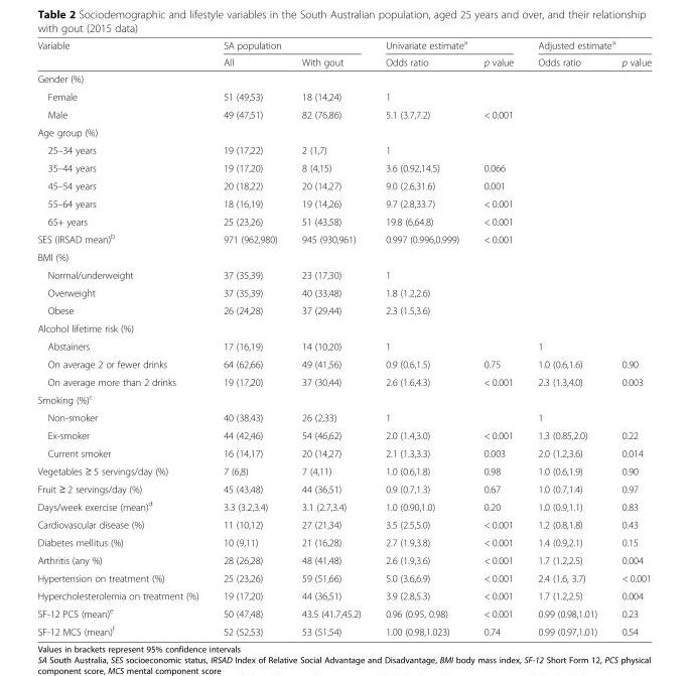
<table><thead><tr><td rowspan="2">Variable</td><td colspan="2">SA population</td><td colspan="2">Univariate estimate<sup>a</sup></td><td colspan="2">Adjusted estimate<sup>a</sup></td></tr><tr><td>All</td><td>With gout</td><td>Odds ratio</td><td>p value</td><td>Odds ratio</td><td>p value</td></tr></thead><tbody><tr><td colspan="7">Gender (%)</td></tr><tr><td>Female</td><td>51 (49,53)</td><td>18 (14,24)</td><td>1</td><td></td><td></td><td rowspan="2"></td></tr><tr><td>Male</td><td>49 (47,51)</td><td>82 (76,86)</td><td>5.1 (3.7,7.2)</td><td>&lt; 0.001</td><td></td></tr><tr><td colspan="7">Age group (%)</td></tr><tr><td>25–34 years</td><td>19 (17,22)</td><td>2 (1,7)</td><td>1</td><td></td><td></td><td rowspan="6"></td></tr><tr><td>35–44 years</td><td>19 (17,20)</td><td>8 (4,15)</td><td>3.6 (0.92,14.5)</td><td>0.066</td><td></td></tr><tr><td>45–54 years</td><td>20 (18,22)</td><td>20 (14,27)</td><td>9.0 (2.6,31.6)</td><td>0.001</td><td></td></tr><tr><td>55–64 years</td><td>18 (16,19)</td><td>19 (14,26)</td><td>9.7 (2.8,33.7)</td><td>&lt; 0.001</td><td></td></tr><tr><td>65+ years</td><td>25 (23,26)</td><td>51 (43,58)</td><td>19.8 (6,64.8)</td><td>&lt; 0.001</td><td></td></tr><tr><td>SES (IRSAD mean)<sup>b</sup></td><td>971 (962,980)</td><td>945 (930,961)</td><td>0.997 (0.996,0.999)</td><td>&lt; 0.001</td><td></td></tr><tr><td colspan="7">BMI (%)</td></tr><tr><td>Normal/underweight</td><td>37 (35,39)</td><td>23 (17,30)</td><td>1</td><td></td><td></td><td rowspan="3"></td></tr><tr><td>Overweight</td><td>37 (35,39)</td><td>40 (33,48)</td><td>1.8 (1.2,2.6)</td><td></td><td></td></tr><tr><td>Obese</td><td>26 (24,28)</td><td>37 (29,44)</td><td>2.3 (1.5,3.6)</td><td></td><td></td></tr><tr><td colspan="7">Alcohol lifetime risk (%)</td></tr><tr><td>Abstainers</td><td>17 (16,19)</td><td>14 (10,20)</td><td>1</td><td></td><td>1</td><td></td></tr><tr><td>On average 2 or fewer drinks</td><td>64 (62,66)</td><td>49 (41,56)</td><td>0.9 (0.6,1.5)</td><td>0.75</td><td>1.0 (0.6,1.6)</td><td>0.90</td></tr><tr><td>On average more than 2 drinks</td><td>19 (17,20)</td><td>37 (30,44)</td><td>2.6 (1.6,4.3)</td><td>&lt; 0.001</td><td>2.3 (1.3,4.0)</td><td>0.003</td></tr><tr><td colspan="7">Smoking (%)<sup>c</sup></td></tr><tr><td>Non-smoker</td><td>40 (38,43)</td><td>26 (2,33)</td><td>1</td><td></td><td>1</td><td></td></tr><tr><td>Ex-smoker</td><td>44 (42,46)</td><td>54 (46,62)</td><td>2.0 (1.4,3.0)</td><td>&lt; 0.001</td><td>1.3 (0.85,2.0)</td><td>0.22</td></tr><tr><td>Current smoker</td><td>16 (14,17)</td><td>20 (14,27)</td><td>2.1 (1.3,3.3)</td><td>0.003</td><td>2.0 (1.2,3.6)</td><td>0.014</td></tr><tr><td>Vegetables ≥ 5 servings/day (%)</td><td>7 (6,8)</td><td>7 (4,11)</td><td>1.0 (0.6,1.8)</td><td>0.98</td><td>1.0 (0.6,1.9)</td><td>0.90</td></tr><tr><td>Fruit ≥ 2 servings/day (%)</td><td>45 (43,48)</td><td>44 (36,51)</td><td>0.9 (0.7,1.3)</td><td>0.67</td><td>1.0 (0.7,1.4)</td><td>0.97</td></tr><tr><td>Days/week exercise (mean)<sup>d</sup></td><td>3.3 (3.2,3.4)</td><td>3.1 (2.7,3.4)</td><td>1.0 (0.90,1.0)</td><td>0.20</td><td>1.0 (0.9,1.1)</td><td>0.83</td></tr><tr><td>Cardiovascular disease (%)</td><td>11 (10,12)</td><td>27 (21,34)</td><td>3.5 (2.5,5.0)</td><td>&lt; 0.001</td><td>1.2 (0.8,1.8)</td><td>0.43</td></tr><tr><td>Diabetes mellitus (%)</td><td>10 (9,11)</td><td>21 (16,28)</td><td>2.7 (1.9,3.8)</td><td>&lt; 0.001</td><td>1.4 (0.9,2.1)</td><td>0.15</td></tr><tr><td>Arthritis (any %)</td><td>28 (26,28)</td><td>48 (41,48)</td><td>2.6 (1.9,3.6)</td><td>&lt; 0.001</td><td>1.7 (1.2,2.5)</td><td>0.004</td></tr><tr><td>Hypertension on treatment (%)</td><td>25 (23,26)</td><td>59 (51,66)</td><td>5.0 (3.6,6.9)</td><td>&lt; 0.001</td><td>2.4 (1.6, 3.7)</td><td>&lt; 0.001</td></tr><tr><td>Hypercholesterolemia on treatment (%)</td><td>19 (17,20)</td><td>44 (36,51)</td><td>3.9 (2.8,5.3)</td><td>&lt; 0.001</td><td>1.7 (1.2,2.5)</td><td>0.004</td></tr><tr><td>SF-12 PCS (mean)<sup>e</sup></td><td>50 (47,48)</td><td>43.5 (41.7,45.2)</td><td>0.96 (0.95, 0.98)</td><td>&lt; 0.001</td><td>0.99 (0.98,1.01)</td><td>0.23</td></tr><tr><td>SF-12 MCS (mean)<sup>f</sup></td><td>52 (52,53)</td><td>53 (51,54)</td><td>1.00 (0.98,1.023)</td><td>0.74</td><td>0.99 (0.97,1.01)</td><td>0.54</td></tr></tbody></table>